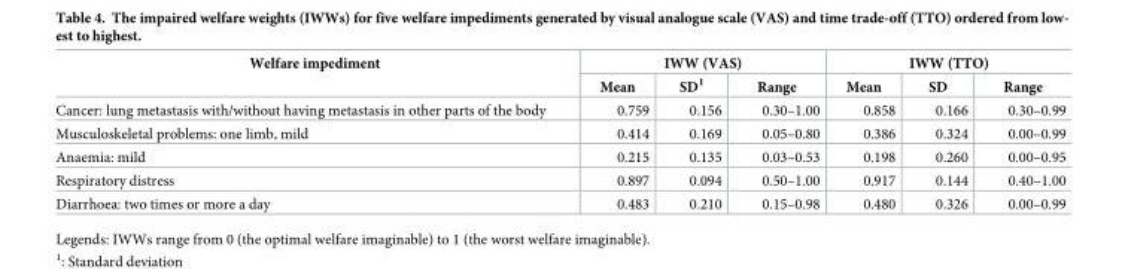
<table><thead><tr><td rowspan="2">Welfare impediment</td><td colspan="3">IWW (VAS)</td><td colspan="3">IWW (TTO)</td></tr><tr><td>Mean</td><td>SD<sup>1</sup></td><td>Range</td><td>Mean</td><td>SD</td><td>Range</td></tr></thead><tbody><tr><td>Cancer: lung metastasis with/without having metastasis in other parts of the body</td><td>0.759</td><td>0.156</td><td>0.30–1.00</td><td>0.858</td><td>0.166</td><td>0.30–0.99</td></tr><tr><td>Musculoskeletal problems: one limb, mild</td><td>0.414</td><td>0.169</td><td>0.05–0.80</td><td>0.386</td><td>0.324</td><td>0.00–0.99</td></tr><tr><td>Anaemia: mild</td><td>0.215</td><td>0.135</td><td>0.03–0.53</td><td>0.198</td><td>0.260</td><td>0.00–0.95</td></tr><tr><td>Respiratory distress</td><td>0.897</td><td>0.094</td><td>0.50–1.00</td><td>0.917</td><td>0.144</td><td>0.40–1.00</td></tr><tr><td>Diarrhoea: two times or more a day</td><td>0.483</td><td>0.210</td><td>0.15–0.98</td><td>0.480</td><td>0.326</td><td>0.00–0.99</td></tr></tbody></table>